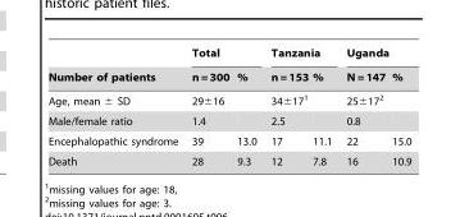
<table><thead><tr><td rowspan="2">Number of patients</td><td colspan="2">Total</td><td colspan="2">Tanzania</td><td colspan="2">Uganda</td></tr><tr><td>n = 300</td><td>%</td><td>n = 153</td><td>%</td><td>N = 147</td><td>%</td></tr></thead><tbody><tr><td>Age, mean ± SD</td><td>29±16</td><td></td><td>34±17<sup>1</sup></td><td></td><td>25±17<sup>2</sup></td><td></td></tr><tr><td>Male/female ratio</td><td>1.4</td><td></td><td>2.5</td><td></td><td>0.8</td><td></td></tr><tr><td>Encephalopathic syndrome</td><td>39</td><td>13.0</td><td>17</td><td>11.1</td><td>22</td><td>15.0</td></tr><tr><td>Death</td><td>28</td><td>9.3</td><td>12</td><td>7.8</td><td>16</td><td>10.9</td></tr></tbody></table>